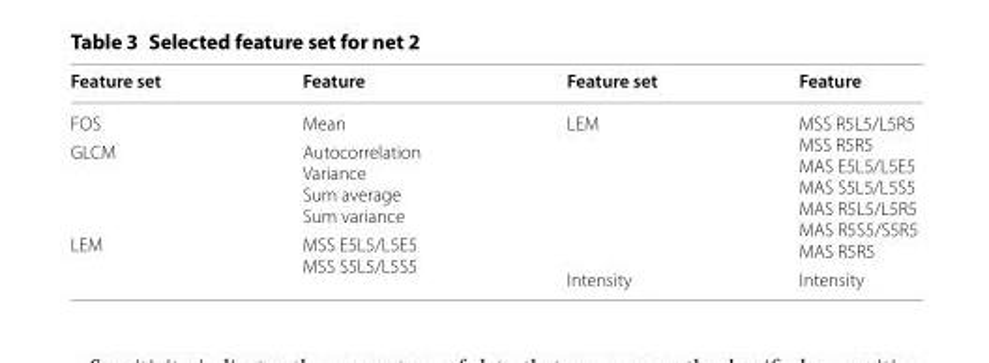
<table><thead><tr><td>Feature set</td><td>Feature</td><td>Feature set</td><td>Feature</td></tr></thead><tbody><tr><td>FOS</td><td>Mean</td><td rowspan="3">LEM</td><td rowspan="3">MSS R5L5/L5R5 MSS R5R5 MAS E5L5/L5E5 MAS S5L5/L5S5 MAS R5L5/L5R5 MAS R5S5/S5R5 MAS R5R5</td></tr><tr><td>GLCM</td><td>Autocorrelation Variance Sum average Sum variance</td></tr><tr><td rowspan="2">LEM</td><td rowspan="2">MSS E5L5/L5E5 MSS S5L5/L5S5</td></tr><tr><td>Intensity</td><td>Intensity</td></tr></tbody></table>